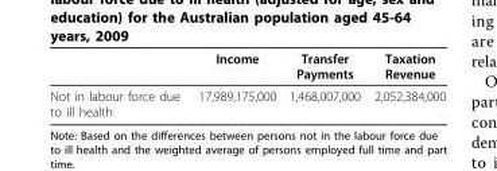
<table><thead><tr><td></td><td>Income</td><td>Transfer Payments</td><td>Taxation Revenue</td></tr></thead><tbody><tr><td>Not in labour force due to ill health</td><td>17,989,175,000</td><td>1,468,007,000</td><td>2,052,384,000</td></tr></tbody></table>